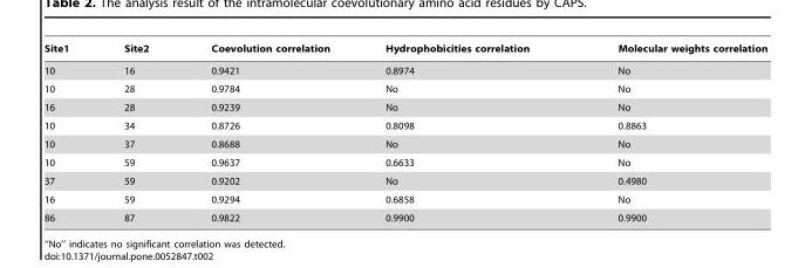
<table><thead><tr><td>Site1</td><td>Site2</td><td>Coevolution correlation</td><td>Hydrophobicities correlation</td><td>Molecular weights correlation</td></tr></thead><tbody><tr><td>10</td><td>16</td><td>0.9421</td><td>0.8974</td><td>No</td></tr><tr><td>10</td><td>28</td><td>0.9784</td><td>No</td><td>No</td></tr><tr><td>16</td><td>28</td><td>0.9239</td><td>No</td><td>No</td></tr><tr><td>10</td><td>34</td><td>0.8726</td><td>0.8098</td><td>0.8863</td></tr><tr><td>10</td><td>37</td><td>0.8688</td><td>No</td><td>No</td></tr><tr><td>10</td><td>59</td><td>0.9637</td><td>0.6633</td><td>No</td></tr><tr><td>37</td><td>59</td><td>0.9202</td><td>No</td><td>0.4980</td></tr><tr><td>16</td><td>59</td><td>0.9294</td><td>0.6858</td><td>No</td></tr><tr><td>86</td><td>87</td><td>0.9822</td><td>0.9900</td><td>0.9900</td></tr></tbody></table>